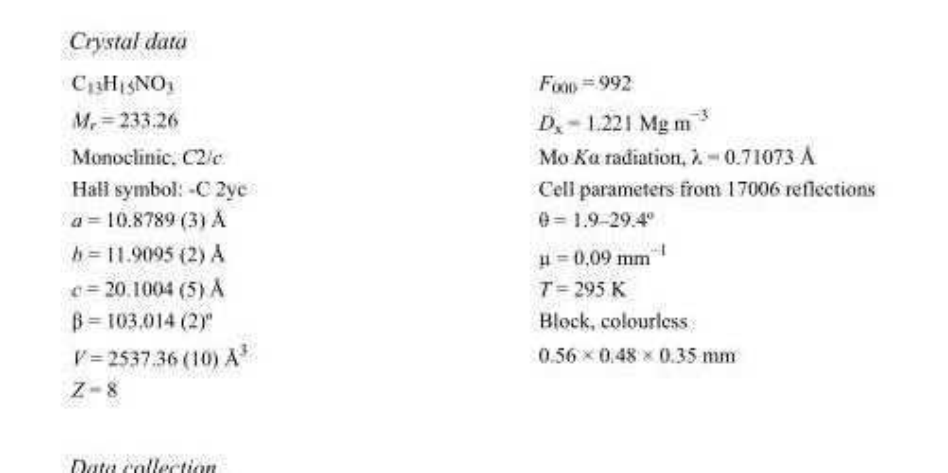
<table><tbody><tr><td>C<sub>13</sub>H<sub>15</sub>NO<sub>3</sub></td><td>F000 = 992</td></tr><tr><td>M<sub>r</sub> = 233.26</td><td>D<sub>x</sub> = 1.221 Mg m<sup>−3</sup></td></tr><tr><td>Monoclinic, C2/c</td><td>Mo Kα radiation, λ = 0.71073 Å</td></tr><tr><td>Hall symbol: -C 2yc</td><td>Cell parameters from 17006 reflections</td></tr><tr><td>a = 10.8789 (3) Å</td><td>θ = 1.9–29.4º</td></tr><tr><td>b = 11.9095 (2) Å</td><td>µ = 0.09 mm<sup>−1</sup></td></tr><tr><td>c = 20.1004 (5) Å</td><td>T = 295 K</td></tr><tr><td>β = 103.014 (2)º</td><td>Block, colourless</td></tr><tr><td>V = 2537.36 (10) Å<sup>3</sup></td><td>0.56 × 0.48 × 0.35 mm</td></tr><tr><td>Z = 8</td><td></td></tr></tbody></table>